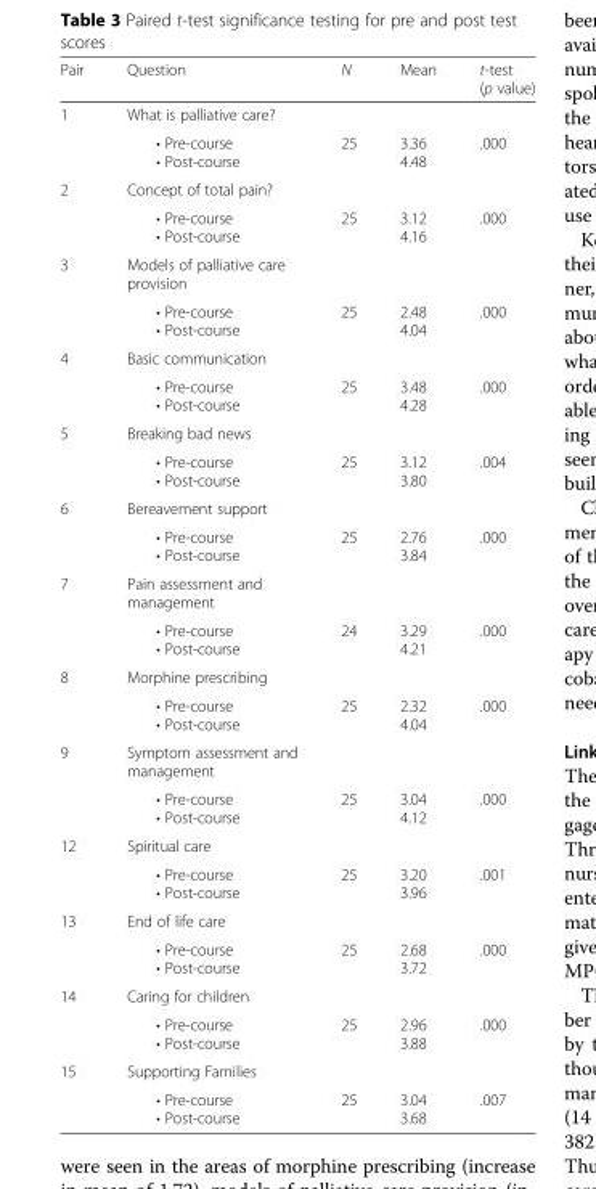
<table><thead><tr><td>Pair</td><td>Question</td><td>N</td><td>Mean</td><td>t-test (p value)</td></tr></thead><tbody><tr><td rowspan="2">1</td><td>What is palliative care?</td><td></td><td></td><td></td></tr><tr><td>• Pre-course • Post-course</td><td>25</td><td>3.36 4.48</td><td>.000</td></tr><tr><td rowspan="2">2</td><td>Concept of total pain?</td><td></td><td></td><td></td></tr><tr><td>• Pre-course • Post-course</td><td>25</td><td>3.12 4.16</td><td>.000</td></tr><tr><td rowspan="2">3</td><td>Models of palliative care provision</td><td></td><td></td><td></td></tr><tr><td>• Pre-course • Post-course</td><td>25</td><td>2.48 4.04</td><td>.000</td></tr><tr><td rowspan="2">4</td><td>Basic communication</td><td></td><td></td><td></td></tr><tr><td>• Pre-course • Post-course</td><td>25</td><td>3.48 4.28</td><td>.000</td></tr><tr><td rowspan="2">5</td><td>Breaking bad news</td><td></td><td></td><td></td></tr><tr><td>• Pre-course • Post-course</td><td>25</td><td>3.12 3.80</td><td>.004</td></tr><tr><td rowspan="2">6</td><td>Bereavement support</td><td></td><td></td><td></td></tr><tr><td>• Pre-course • Post-course</td><td>25</td><td>2.76 3.84</td><td>.000</td></tr><tr><td rowspan="2">7</td><td>Pain assessment and management</td><td></td><td></td><td></td></tr><tr><td>• Pre-course • Post-course</td><td>24</td><td>3.29 4.21</td><td>.000</td></tr><tr><td rowspan="2">8</td><td>Morphine prescribing</td><td></td><td></td><td></td></tr><tr><td>• Pre-course • Post-course</td><td>25</td><td>2.32 4.04</td><td>.000</td></tr><tr><td rowspan="2">9</td><td>Symptom assessment and management</td><td></td><td></td><td></td></tr><tr><td>• Pre-course • Post-course</td><td>25</td><td>3.04 4.12</td><td>.000</td></tr><tr><td rowspan="2">12</td><td>Spiritual care</td><td></td><td></td><td></td></tr><tr><td>• Pre-course • Post-course</td><td>25</td><td>3.20 3.96</td><td>.001</td></tr><tr><td rowspan="2">13</td><td>End of life care</td><td></td><td></td><td></td></tr><tr><td>• Pre-course • Post-course</td><td>25</td><td>2.68 3.72</td><td>.000</td></tr><tr><td rowspan="2">14</td><td>Caring for children</td><td></td><td></td><td></td></tr><tr><td>• Pre-course • Post-course</td><td>25</td><td>2.96 3.88</td><td>.000</td></tr><tr><td rowspan="2">15</td><td>Supporting Families</td><td></td><td></td><td></td></tr><tr><td>• Pre-course • Post-course</td><td>25</td><td>3.04 3.68</td><td>.007</td></tr></tbody></table>